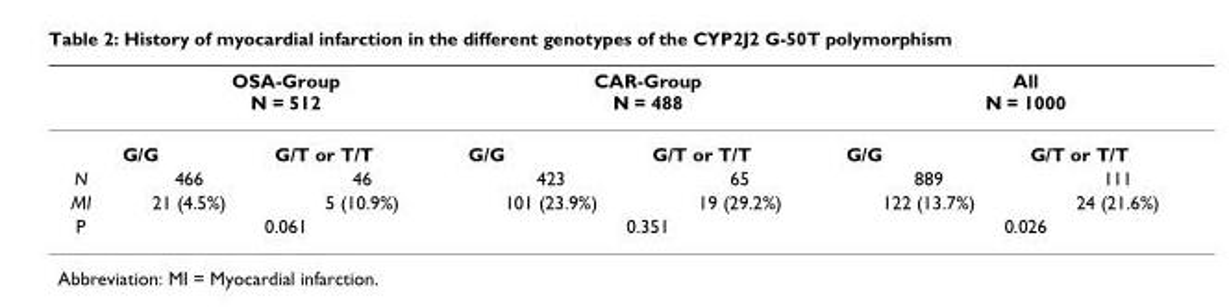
<table><thead><tr><td rowspan="2"></td><td colspan="2">OSA-Group N = 512</td><td colspan="2">CAR-Group N = 488</td><td colspan="2">All N = 1000</td></tr><tr><td>G/G</td><td>G/T or T/T</td><td>G/G</td><td>G/T or T/T</td><td>G/G</td><td>G/T or T/T</td></tr></thead><tbody><tr><td>N</td><td>466</td><td>46</td><td>423</td><td>65</td><td>889</td><td>111</td></tr><tr><td>MI</td><td>21 (4.5%)</td><td>5 (10.9%)</td><td>101 (23.9%)</td><td>19 (29.2%)</td><td>122 (13.7%)</td><td>24 (21.6%)</td></tr><tr><td>P</td><td colspan="2">0.061</td><td colspan="2">0.351</td><td colspan="2">0.026</td></tr></tbody></table>